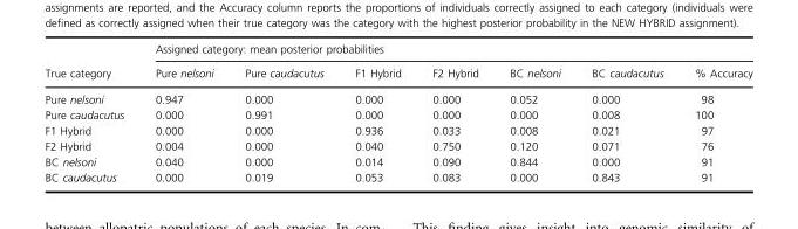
<table><thead><tr><td rowspan="2">True category</td><td colspan="7">Assigned category: mean posterior probabilities</td></tr><tr><td>Pure nelsoni</td><td>Pure caudacutus</td><td>F1 Hybrid</td><td>F2 Hybrid</td><td>BC nelsoni</td><td>BC caudacutus</td><td>% Accuracy</td></tr></thead><tbody><tr><td>Pure nelsoni</td><td>0.947</td><td>0.000</td><td>0.000</td><td>0.000</td><td>0.052</td><td>0.000</td><td>98</td></tr><tr><td>Pure caudacutus</td><td>0.000</td><td>0.991</td><td>0.000</td><td>0.000</td><td>0.000</td><td>0.008</td><td>100</td></tr><tr><td>F1 Hybrid</td><td>0.000</td><td>0.000</td><td>0.936</td><td>0.033</td><td>0.008</td><td>0.021</td><td>97</td></tr><tr><td>F2 Hybrid</td><td>0.004</td><td>0.000</td><td>0.040</td><td>0.750</td><td>0.120</td><td>0.071</td><td>76</td></tr><tr><td>BC nelsoni</td><td>0.040</td><td>0.000</td><td>0.014</td><td>0.090</td><td>0.844</td><td>0.000</td><td>91</td></tr><tr><td>BC caudacutus</td><td>0.000</td><td>0.019</td><td>0.053</td><td>0.083</td><td>0.000</td><td>0.843</td><td>91</td></tr></tbody></table>